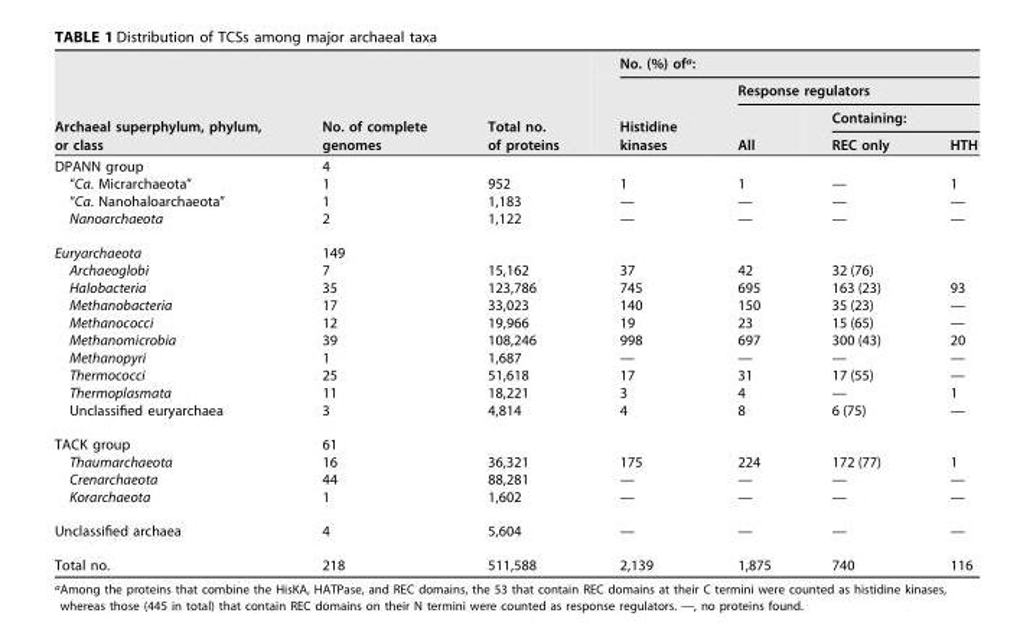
<table><thead><tr><td rowspan="4">Archaeal superphylum, phylum, or class</td><td rowspan="4">No. of complete genomes</td><td rowspan="4">Total no. of proteins</td><td colspan="4">No. (%) of<sup>a</sup>:</td></tr><tr><td rowspan="3">Histidine kinases</td><td colspan="3">Response regulators</td></tr><tr><td rowspan="2">All</td><td colspan="2">Containing:</td></tr><tr><td>REC only</td><td>HTH</td></tr></thead><tbody><tr><td>DPANN group</td><td>4</td><td></td><td></td><td></td><td></td><td></td></tr><tr><td>“Ca. Micrarchaeota”</td><td>1</td><td>952</td><td>1</td><td>1</td><td>—</td><td>1</td></tr><tr><td>“Ca. Nanohaloarchaeota”</td><td>1</td><td>1,183</td><td>—</td><td>—</td><td>—</td><td>—</td></tr><tr><td>Nanoarchaeota</td><td>2</td><td>1,122</td><td>—</td><td>—</td><td>—</td><td>—</td></tr><tr><td>Euryarchaeota</td><td>149</td><td></td><td></td><td></td><td></td><td></td></tr><tr><td>Archaeoglobi</td><td>7</td><td>15,162</td><td>37</td><td>42</td><td>32 (76)</td><td></td></tr><tr><td>Halobacteria</td><td>35</td><td>123,786</td><td>745</td><td>695</td><td>163 (23)</td><td>93</td></tr><tr><td>Methanobacteria</td><td>17</td><td>33,023</td><td>140</td><td>150</td><td>35 (23)</td><td>—</td></tr><tr><td>Methanococci</td><td>12</td><td>19,966</td><td>19</td><td>23</td><td>15 (65)</td><td>—</td></tr><tr><td>Methanomicrobia</td><td>39</td><td>108,246</td><td>998</td><td>697</td><td>300 (43)</td><td>20</td></tr><tr><td>Methanopyri</td><td>1</td><td>1,687</td><td>—</td><td>—</td><td>—</td><td>—</td></tr><tr><td>Thermococci</td><td>25</td><td>51,618</td><td>17</td><td>31</td><td>17 (55)</td><td>—</td></tr><tr><td>Thermoplasmata</td><td>11</td><td>18,221</td><td>3</td><td>4</td><td>—</td><td>1</td></tr><tr><td>Unclassified euryarchaea</td><td>3</td><td>4,814</td><td>4</td><td>8</td><td>6 (75)</td><td>—</td></tr><tr><td>TACK group</td><td>61</td><td></td><td></td><td></td><td></td><td></td></tr><tr><td>Thaumarchaeota</td><td>16</td><td>36,321</td><td>175</td><td>224</td><td>172 (77)</td><td>1</td></tr><tr><td>Crenarchaeota</td><td>44</td><td>88,281</td><td>—</td><td>—</td><td>—</td><td>—</td></tr><tr><td>Korarchaeota</td><td>1</td><td>1,602</td><td>—</td><td>—</td><td>—</td><td>—</td></tr><tr><td>Unclassified archaea</td><td>4</td><td>5,604</td><td>—</td><td>—</td><td>—</td><td>—</td></tr><tr><td>Total no.</td><td>218</td><td>511,588</td><td>2,139</td><td>1,875</td><td>740</td><td>116</td></tr></tbody></table>